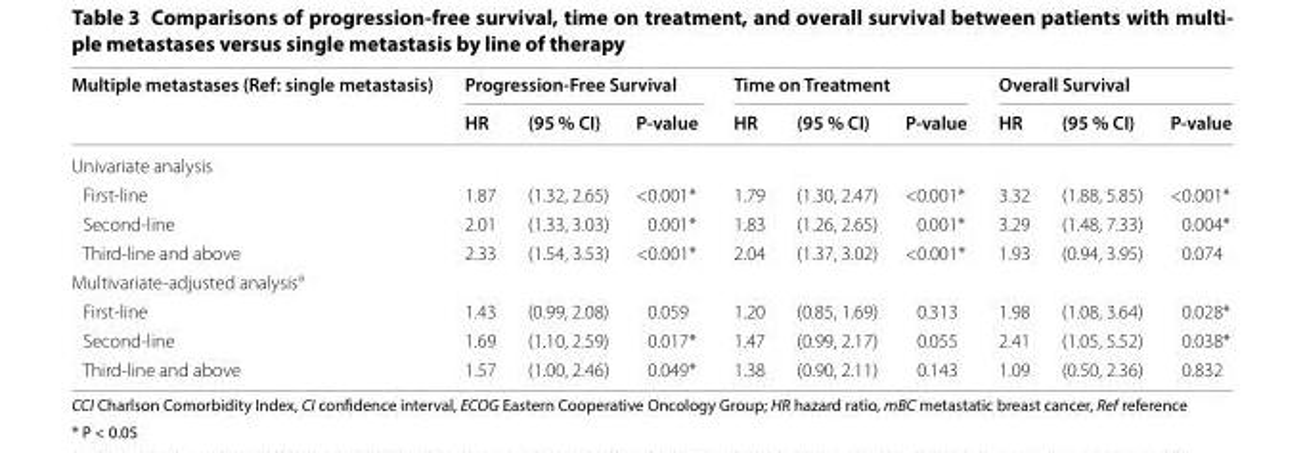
<table><thead><tr><td rowspan="2">Multiple metastases (Ref: single metastasis)</td><td colspan="3">Progression‑Free Survival</td><td colspan="3">Time on Treatment</td><td colspan="3">Overall Survival</td></tr><tr><td>HR</td><td>(95 % CI)</td><td>P‑value</td><td>HR</td><td>(95 % CI)</td><td>P‑value</td><td>HR</td><td>(95 % CI)</td><td>P‑value</td></tr></thead><tbody><tr><td colspan="10">Univariate analysis</td></tr><tr><td>First-line</td><td>1.87</td><td>(1.32, 2.65)</td><td>&lt;0.001*</td><td>1.79</td><td>(1.30, 2.47)</td><td>&lt;0.001*</td><td>3.32</td><td>(1.88, 5.85)</td><td>&lt;0.001*</td></tr><tr><td>Second-line</td><td>2.01</td><td>(1.33, 3.03)</td><td>0.001*</td><td>1.83</td><td>(1.26, 2.65)</td><td>0.001*</td><td>3.29</td><td>(1.48, 7.33)</td><td>0.004*</td></tr><tr><td>Third-line and above</td><td>2.33</td><td>(1.54, 3.53)</td><td>&lt;0.001*</td><td>2.04</td><td>(1.37, 3.02)</td><td>&lt;0.001*</td><td>1.93</td><td>(0.94, 3.95)</td><td>0.074</td></tr><tr><td colspan="10">Multivariate-adjusted analysis<sup>a</sup></td></tr><tr><td>First-line</td><td>1.43</td><td>(0.99, 2.08)</td><td>0.059</td><td>1.20</td><td>(0.85, 1.69)</td><td>0.313</td><td>1.98</td><td>(1.08, 3.64)</td><td>0.028*</td></tr><tr><td>Second-line</td><td>1.69</td><td>(1.10, 2.59)</td><td>0.017*</td><td>1.47</td><td>(0.99, 2.17)</td><td>0.055</td><td>2.41</td><td>(1.05, 5.52)</td><td>0.038*</td></tr><tr><td>Third-line and above</td><td>1.57</td><td>(1.00, 2.46)</td><td>0.049*</td><td>1.38</td><td>(0.90, 2.11)</td><td>0.143</td><td>1.09</td><td>(0.50, 2.36)</td><td>0.832</td></tr></tbody></table>